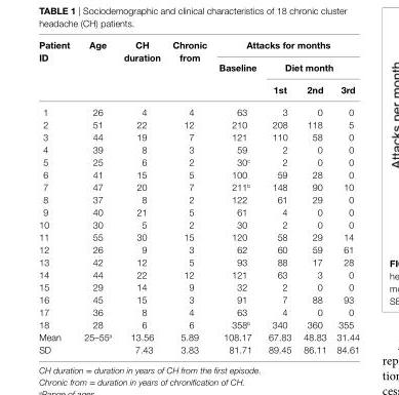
<table><thead><tr><td rowspan="3">Patient iD</td><td rowspan="3">age</td><td rowspan="3">ch duration</td><td rowspan="3">chronic from</td><td colspan="4">attacks for months</td></tr><tr><td rowspan="2">baseline</td><td colspan="3">Diet month</td></tr><tr><td>1st</td><td>2nd</td><td>3rd</td></tr></thead><tbody><tr><td>1</td><td>26</td><td>4</td><td>4</td><td>63</td><td>3</td><td>0</td><td>0</td></tr><tr><td>2</td><td>51</td><td>22</td><td>12</td><td>210</td><td>208</td><td>118</td><td>5</td></tr><tr><td>3</td><td>44</td><td>19</td><td>7</td><td>121</td><td>110</td><td>58</td><td>0</td></tr><tr><td>4</td><td>39</td><td>8</td><td>3</td><td>59</td><td>2</td><td>0</td><td>0</td></tr><tr><td>5</td><td>25</td><td>6</td><td>2</td><td>30<sup>c</sup></td><td>2</td><td>0</td><td>0</td></tr><tr><td>6</td><td>41</td><td>15</td><td>5</td><td>100</td><td>59</td><td>28</td><td>0</td></tr><tr><td>7</td><td>47</td><td>20</td><td>7</td><td>211<sup>b</sup></td><td>148</td><td>90</td><td>10</td></tr><tr><td>8</td><td>37</td><td>8</td><td>2</td><td>122</td><td>61</td><td>29</td><td>0</td></tr><tr><td>9</td><td>40</td><td>21</td><td>5</td><td>61</td><td>4</td><td>0</td><td>0</td></tr><tr><td>10</td><td>30</td><td>5</td><td>2</td><td>30</td><td>2</td><td>0</td><td>0</td></tr><tr><td>11</td><td>55</td><td>30</td><td>15</td><td>120</td><td>58</td><td>29</td><td>14</td></tr><tr><td>12</td><td>26</td><td>9</td><td>3</td><td>62</td><td>60</td><td>59</td><td>61</td></tr><tr><td>13</td><td>42</td><td>12</td><td>5</td><td>93</td><td>88</td><td>17</td><td>28</td></tr><tr><td>14</td><td>44</td><td>22</td><td>12</td><td>121</td><td>63</td><td>3</td><td>0</td></tr><tr><td>15</td><td>29</td><td>14</td><td>9</td><td>32</td><td>2</td><td>0</td><td>0</td></tr><tr><td>16</td><td>45</td><td>15</td><td>3</td><td>91</td><td>7</td><td>88</td><td>93</td></tr><tr><td>17</td><td>36</td><td>8</td><td>4</td><td>63</td><td>4</td><td>0</td><td>0</td></tr><tr><td>18</td><td>28</td><td>6</td><td>6</td><td>358<sup>b</sup></td><td>340</td><td>360</td><td>355</td></tr><tr><td>Mean</td><td>25–55<sup>a</sup></td><td>13.56</td><td>5.89</td><td>108.17</td><td>67.83</td><td>48.83</td><td>31.44</td></tr><tr><td>SD</td><td></td><td>7.43</td><td>3.83</td><td>81.71</td><td>89.45</td><td>86.11</td><td>84.61</td></tr></tbody></table>